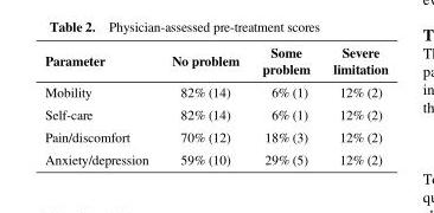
<table><thead><tr><td>Parameter</td><td>No problem</td><td>Some problem</td><td>Severe limitation</td></tr></thead><tbody><tr><td>Mobility</td><td>82% (14)</td><td>6% (1)</td><td>12% (2)</td></tr><tr><td>Self-care</td><td>82% (14)</td><td>6% (1)</td><td>12% (2)</td></tr><tr><td>Pain/discomfort</td><td>70% (12)</td><td>18% (3)</td><td>12% (2)</td></tr><tr><td>Anxiety/depression</td><td>59% (10)</td><td>29% (5)</td><td>12% (2)</td></tr></tbody></table>